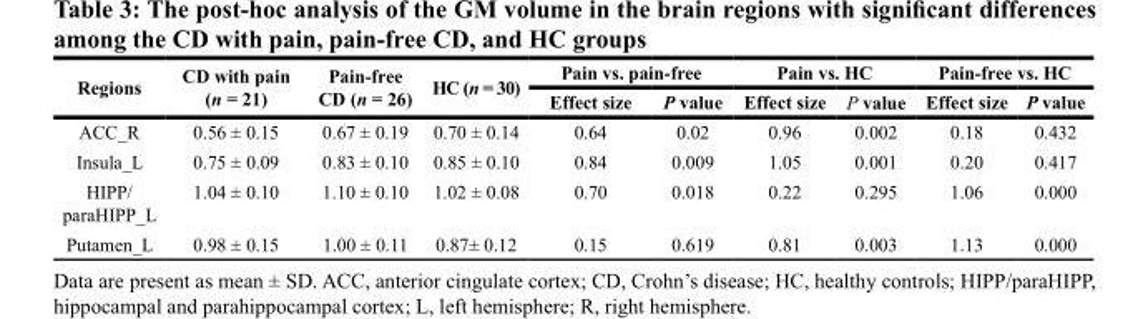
<table><thead><tr><td rowspan="2">Regions</td><td rowspan="2">CD with pain (n = 21)</td><td rowspan="2">Pain-free CD (n = 26)</td><td rowspan="2">HC (n = 30)</td><td colspan="2">Pain vs. pain-free</td><td colspan="2">Pain vs. HC</td><td colspan="2">Pain-free vs. HC</td></tr><tr><td>Effect size</td><td>P value</td><td>Effect size</td><td>P value</td><td>Effect size</td><td>P value</td></tr></thead><tbody><tr><td>ACC_R</td><td>0.56 ± 0.15</td><td>0.67 ± 0.19</td><td>0.70 ± 0.14</td><td>0.64</td><td>0.02</td><td>0.96</td><td>0.002</td><td>0.18</td><td>0.432</td></tr><tr><td>Insula_L</td><td>0.75 ± 0.09</td><td>0.83 ± 0.10</td><td>0.85 ± 0.10</td><td>0.84</td><td>0.009</td><td>1.05</td><td>0.001</td><td>0.20</td><td>0.417</td></tr><tr><td>HIPP/ paraHIPP_L</td><td>1.04 ± 0.10</td><td>1.10 ± 0.10</td><td>1.02 ± 0.08</td><td>0.70</td><td>0.018</td><td>0.22</td><td>0.295</td><td>1.06</td><td>0.000</td></tr><tr><td>Putamen_L</td><td>0.98 ± 0.15</td><td>1.00 ± 0.11</td><td>0.87± 0.12</td><td>0.15</td><td>0.619</td><td>0.81</td><td>0.003</td><td>1.13</td><td>0.000</td></tr></tbody></table>